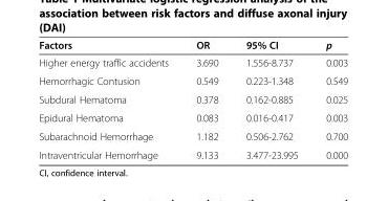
<table><thead><tr><td>Factors</td><td>OR</td><td>95% CI</td><td>p</td></tr></thead><tbody><tr><td>Higher energy traffic accidents</td><td>3.690</td><td>1.556-8.737</td><td>0.003</td></tr><tr><td>Hemorrhagic Contusion</td><td>0.549</td><td>0.223-1.348</td><td>0.549</td></tr><tr><td>Subdural Hematoma</td><td>0.378</td><td>0.162-0.885</td><td>0.025</td></tr><tr><td>Epidural Hematoma</td><td>0.083</td><td>0.016-0.417</td><td>0.003</td></tr><tr><td>Subarachnoid Hemorrhage</td><td>1.182</td><td>0.506-2.762</td><td>0.700</td></tr><tr><td>Intraventricular Hemorrhage</td><td>9.133</td><td>3.477-23.995</td><td>0.000</td></tr></tbody></table>